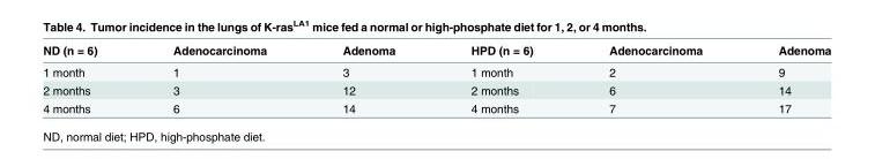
<table><thead><tr><td>ND (n = 6)</td><td>Adenocarcinoma</td><td>Adenoma</td><td>HPD (n = 6)</td><td>Adenocarcinoma</td><td>Adenoma</td></tr></thead><tbody><tr><td>1 month</td><td>1</td><td>3</td><td>1 month</td><td>2</td><td>9</td></tr><tr><td>2 months</td><td>3</td><td>12</td><td>2 months</td><td>6</td><td>14</td></tr><tr><td>4 months</td><td>6</td><td>14</td><td>4 months</td><td>7</td><td>17</td></tr></tbody></table>